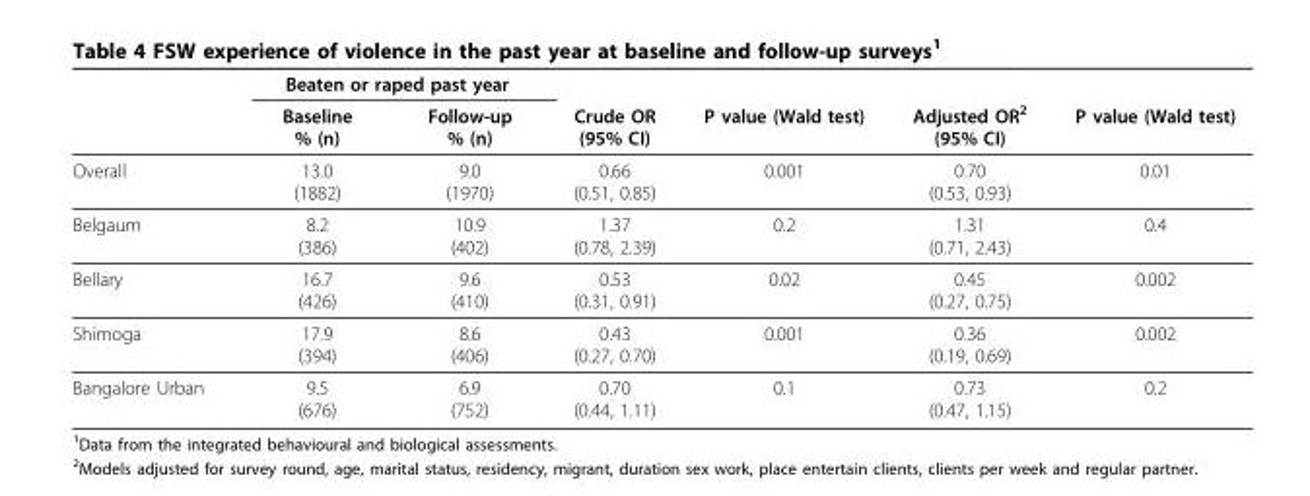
<table><thead><tr><td rowspan="2"></td><td colspan="2">Beaten or raped past year</td><td rowspan="2">Crude OR (95% CI)</td><td rowspan="2">P value (Wald test)</td><td rowspan="2">Adjusted OR<sup>2</sup> (95% CI)</td><td rowspan="2">P value (Wald test)</td></tr><tr><td>Baseline % (n)</td><td>Follow-up % (n)</td></tr></thead><tbody><tr><td>Overall</td><td>13.0 (1882)</td><td>9.0 (1970)</td><td>0.66 (0.51, 0.85)</td><td>0.001</td><td>0.70 (0.53, 0.93)</td><td>0.01</td></tr><tr><td>Belgaum</td><td>8.2 (386)</td><td>10.9 (402)</td><td>1.37 (0.78, 2.39)</td><td>0.2</td><td>1.31 (0.71, 2.43)</td><td>0.4</td></tr><tr><td>Bellary</td><td>16.7 (426)</td><td>9.6 (410)</td><td>0.53 (0.31, 0.91)</td><td>0.02</td><td>0.45 (0.27, 0.75)</td><td>0.002</td></tr><tr><td>Shimoga</td><td>17.9 (394)</td><td>8.6 (406)</td><td>0.43 (0.27, 0.70)</td><td>0.001</td><td>0.36 (0.19, 0.69)</td><td>0.002</td></tr><tr><td>Bangalore Urban</td><td>9.5 (676)</td><td>6.9 (752)</td><td>0.70 (0.44, 1.11)</td><td>0.1</td><td>0.73 (0.47, 1.15)</td><td>0.2</td></tr></tbody></table>